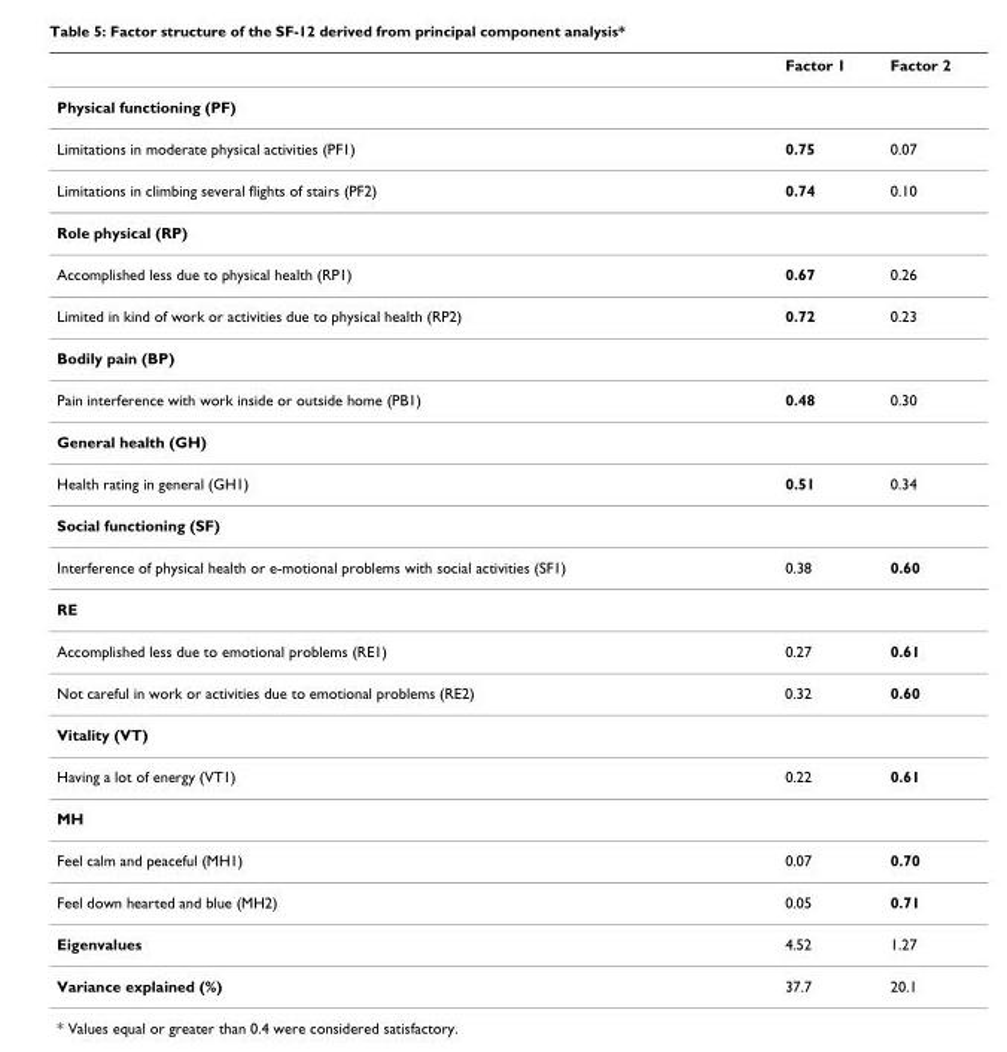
<table><thead><tr><td></td><td>Factor 1</td><td>Factor 2</td></tr></thead><tbody><tr><td colspan="3">Physical functioning (PF)</td></tr><tr><td>Limitations in moderate physical activities (PF1)</td><td>0.75</td><td>0.07</td></tr><tr><td>Limitations in climbing several flights of stairs (PF2)</td><td>0.74</td><td>0.10</td></tr><tr><td colspan="3">Role physical (RP)</td></tr><tr><td>Accomplished less due to physical health (RP1)</td><td>0.67</td><td>0.26</td></tr><tr><td>Limited in kind of work or activities due to physical health (RP2)</td><td>0.72</td><td>0.23</td></tr><tr><td colspan="3">Bodily pain (BP)</td></tr><tr><td>Pain interference with work inside or outside home (PB1)</td><td>0.48</td><td>0.30</td></tr><tr><td colspan="3">General health (GH)</td></tr><tr><td>Health rating in general (GH1)</td><td>0.51</td><td>0.34</td></tr><tr><td colspan="3">Social functioning (SF)</td></tr><tr><td>Interference of physical health or e-motional problems with social activities (SF1)</td><td>0.38</td><td>0.60</td></tr><tr><td colspan="3">RE</td></tr><tr><td>Accomplished less due to emotional problems (RE1)</td><td>0.27</td><td>0.61</td></tr><tr><td>Not careful in work or activities due to emotional problems (RE2)</td><td>0.32</td><td>0.60</td></tr><tr><td colspan="3">Vitality (VT)</td></tr><tr><td>Having a lot of energy (VT1)</td><td>0.22</td><td>0.61</td></tr><tr><td colspan="3">MH</td></tr><tr><td>Feel calm and peaceful (MH1)</td><td>0.07</td><td>0.70</td></tr><tr><td>Feel down hearted and blue (MH2)</td><td>0.05</td><td>0.71</td></tr><tr><td>Eigenvalues</td><td>4.52</td><td>1.27</td></tr><tr><td>Variance explained (%)</td><td>37.7</td><td>20.1</td></tr></tbody></table>